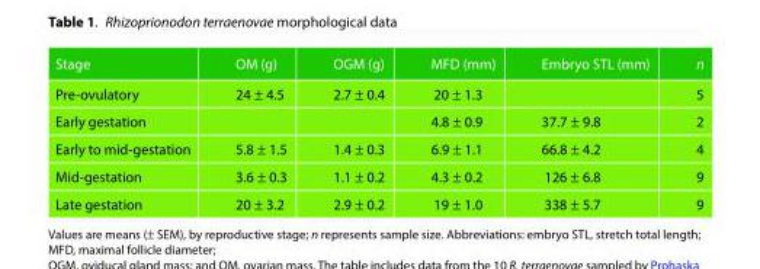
<table><thead><tr><td>Stage</td><td>OM (g)</td><td>OGM (g)</td><td>MFD (mm)</td><td>Embryo STL (mm)</td><td>n</td></tr></thead><tbody><tr><td>Pre-ovulatory</td><td>24 ± 4.5</td><td>2.7 ± 0.4</td><td>20 ± 1.3</td><td></td><td>5</td></tr><tr><td>Early gestation</td><td></td><td></td><td>4.8 ± 0.9</td><td>37.7 ± 9.8</td><td>2</td></tr><tr><td>Early to mid-gestation</td><td>5.8 ± 1.5</td><td>1.4 ± 0.3</td><td>6.9 ± 1.1</td><td>66.8 ± 4.2</td><td>4</td></tr><tr><td>Mid-gestation</td><td>3.6 ± 0.3</td><td>1.1 ± 0.2</td><td>4.3 ± 0.2</td><td>126 ± 6.8</td><td>9</td></tr><tr><td>Late gestation</td><td>20 ± 3.2</td><td>2.9 ± 0.2</td><td>19 ± 1.0</td><td>338 ± 5.7</td><td>9</td></tr></tbody></table>